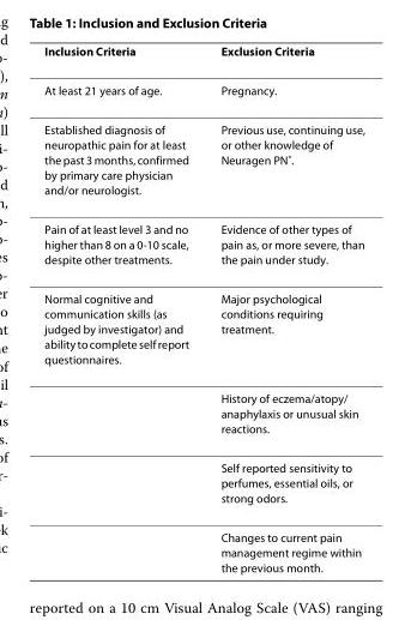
<table><thead><tr><td>Inclusion Criteria</td><td>Exclusion Criteria</td></tr></thead><tbody><tr><td>At least 21 years of age.</td><td>Pregnancy.</td></tr><tr><td>Established diagnosis of neuropathic pain for at least the past 3 months, confirmed by primary care physician and/or neurologist.</td><td>Previous use, continuing use, or other knowledge of Neuragen PN<sup>®</sup>.</td></tr><tr><td>Pain of at least level 3 and no higher than 8 on a 0-10 scale, despite other treatments.</td><td>Evidence of other types of pain as, or more severe, than the pain under study.</td></tr><tr><td rowspan="4">Normal cognitive and communication skills (as judged by investigator) and ability to complete self report questionnaires.</td><td>Major psychological conditions requiring treatment.</td></tr><tr><td>History of eczema/atopy/ anaphylaxis or unusual skin reactions.</td></tr><tr><td>Self reported sensitivity to perfumes, essential oils, or strong odors.</td></tr><tr><td>Changes to current pain management regime within the previous month.</td></tr></tbody></table>